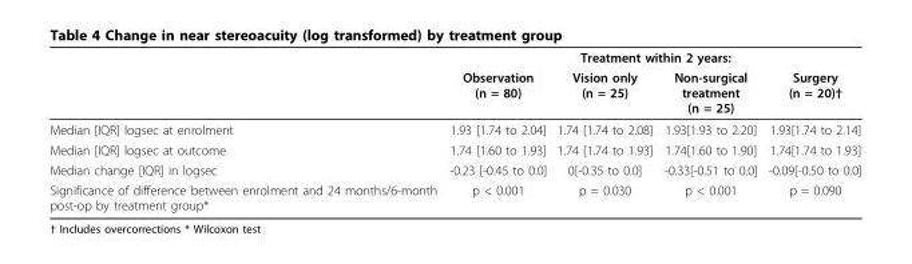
<table><thead><tr><td rowspan="2"></td><td colspan="4">Treatment within 2 years:</td></tr><tr><td>Observation (n = 80)</td><td>Vision only (n = 25)</td><td>Non-surgical treatment (n = 25)</td><td>Surgery (n = 20)†</td></tr></thead><tbody><tr><td>Median [IQR] logsec at enrolment</td><td>1.93 [1.74 to 2.04]</td><td>1.74 [1.74 to 2.08]</td><td>1.93[1.93 to 2.20]</td><td>1.93[1.74 to 2.14]</td></tr><tr><td>Median [IQR] logsec at outcome</td><td>1.74 [1.60 to 1.93]</td><td>1.74 [1.74 to 1.93]</td><td>1.74[1.60 to 1.90]</td><td>1.74[1.74 to 1.93]</td></tr><tr><td>Median change [IQR] in logsec</td><td>-0.23 [-0.45 to 0.0]</td><td>0[-0.35 to 0.0]</td><td>-0.33[-0.51 to 0.0]</td><td>-0.09[-0.50 to 0.0]</td></tr><tr><td>Significance of difference between enrolment and 24 months/6-month post-op by treatment group*</td><td>p &lt; 0.001</td><td>p = 0.030</td><td>p &lt; 0.001</td><td>p = 0.090</td></tr></tbody></table>